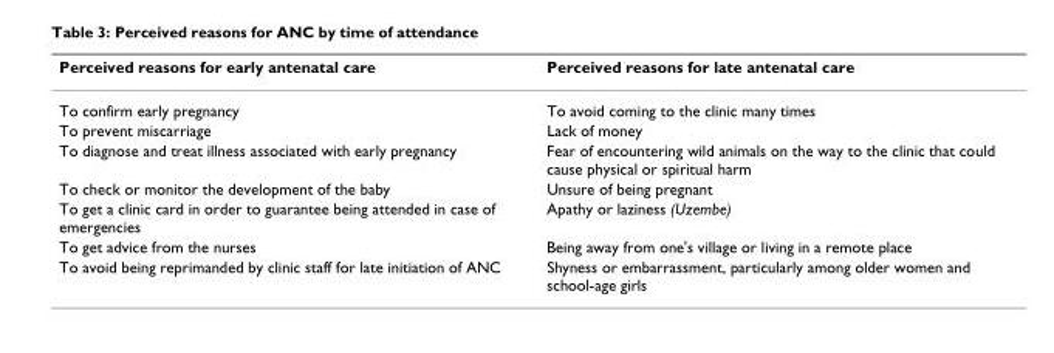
<table><thead><tr><td>Perceived reasons for early antenatal care</td><td>Perceived reasons for late antenatal care</td></tr></thead><tbody><tr><td>To confirm early pregnancy</td><td>To avoid coming to the clinic many times</td></tr><tr><td>To prevent miscarriage</td><td>Lack of money</td></tr><tr><td>To diagnose and treat illness associated with early pregnancy</td><td>Fear of encountering wild animals on the way to the clinic that could cause physical or spiritual harm</td></tr><tr><td>To check or monitor the development of the baby</td><td>Unsure of being pregnant</td></tr><tr><td>To get a clinic card in order to guarantee being attended in case of emergencies</td><td>Apathy or laziness (Uzembe)</td></tr><tr><td>To get advice from the nurses</td><td>Being away from one&#x27;s village or living in a remote place</td></tr><tr><td>To avoid being reprimanded by clinic staff for late initiation of ANC</td><td>Shyness or embarrassment, particularly among older women and school-age girls</td></tr></tbody></table>